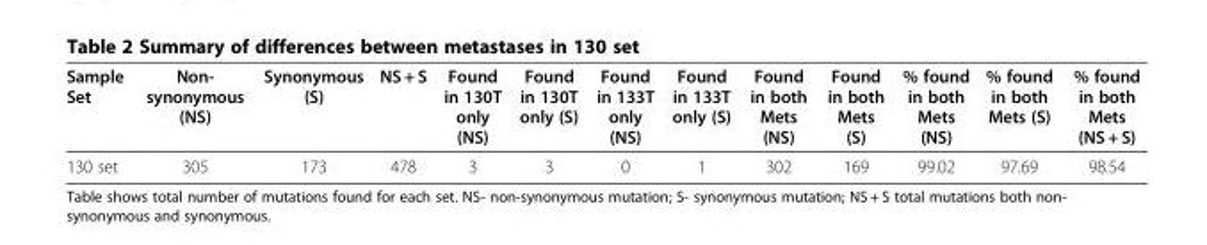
<table><thead><tr><td>Sample Set</td><td>Non- synonymous (NS)</td><td>Synonymous (S)</td><td>NS + S</td><td>Found in 130T only (NS)</td><td>Found in 130T only (S)</td><td>Found in 133T only (NS)</td><td>Found in 133T only (S)</td><td>Found in both Mets (NS)</td><td>Found in both Mets (S)</td><td>% found in both Mets (NS)</td><td>% found in both Mets (S)</td><td>% found in both Mets (NS + S)</td></tr></thead><tbody><tr><td>130 set</td><td>305</td><td>173</td><td>478</td><td>3</td><td>3</td><td>0</td><td>1</td><td>302</td><td>169</td><td>99.02</td><td>97.69</td><td>98.54</td></tr></tbody></table>